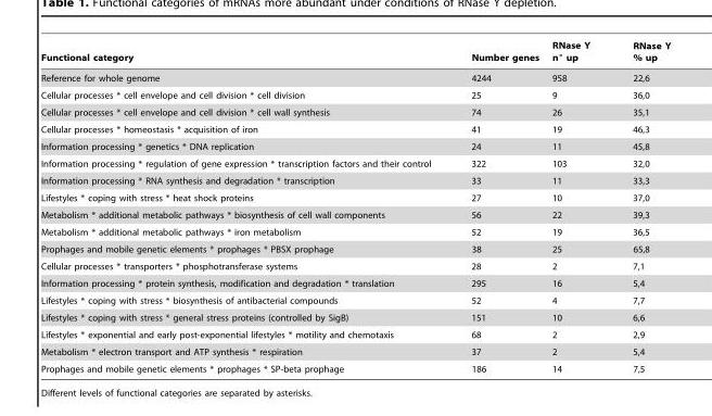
<table><thead><tr><td>Functional category</td><td>Number genes</td><td>RNase Y n° up</td><td>RNase Y % up</td></tr></thead><tbody><tr><td>Reference for whole genome</td><td>4244</td><td>958</td><td>22,6</td></tr><tr><td>Cellular processes * cell envelope and cell division * cell division</td><td>25</td><td>9</td><td>36,0</td></tr><tr><td>Cellular processes * cell envelope and cell division * cell wall synthesis</td><td>74</td><td>26</td><td>35,1</td></tr><tr><td>Cellular processes * homeostasis * acquisition of iron</td><td>41</td><td>19</td><td>46,3</td></tr><tr><td>Information processing * genetics * DNA replication</td><td>24</td><td>11</td><td>45,8</td></tr><tr><td>Information processing * regulation of gene expression * transcription factors and their control</td><td>322</td><td>103</td><td>32,0</td></tr><tr><td>Information processing * RNA synthesis and degradation * transcription</td><td>33</td><td>11</td><td>33,3</td></tr><tr><td>Lifestyles * coping with stress * heat shock proteins</td><td>27</td><td>10</td><td>37,0</td></tr><tr><td>Metabolism * additional metabolic pathways * biosynthesis of cell wall components</td><td>56</td><td>22</td><td>39,3</td></tr><tr><td>Metabolism * additional metabolic pathways * iron metabolism</td><td>52</td><td>19</td><td>36,5</td></tr><tr><td>Prophages and mobile genetic elements * prophages * PBSX prophage</td><td>38</td><td>25</td><td>65,8</td></tr><tr><td>Cellular processes * transporters * phosphotransferase systems</td><td>28</td><td>2</td><td>7,1</td></tr><tr><td>Information processing * protein synthesis, modification and degradation * translation</td><td>295</td><td>16</td><td>5,4</td></tr><tr><td>Lifestyles * coping with stress * biosynthesis of antibacterial compounds</td><td>52</td><td>4</td><td>7,7</td></tr><tr><td>Lifestyles * coping with stress * general stress proteins (controlled by SigB)</td><td>151</td><td>10</td><td>6,6</td></tr><tr><td>Lifestyles * exponential and early post-exponential lifestyles * motility and chemotaxis</td><td>68</td><td>2</td><td>2,9</td></tr><tr><td>Metabolism * electron transport and ATP synthesis * respiration</td><td>37</td><td>2</td><td>5,4</td></tr><tr><td>Prophages and mobile genetic elements * prophages * SP-beta prophage</td><td>186</td><td>14</td><td>7,5</td></tr></tbody></table>